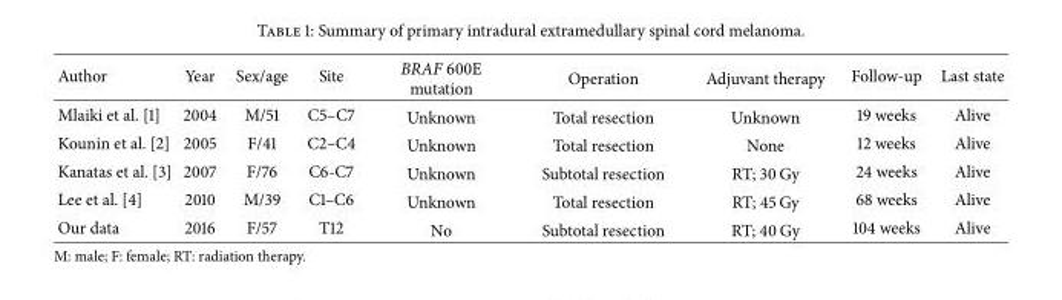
<table><thead><tr><td>Author</td><td>Year</td><td>Sex/age</td><td>Site</td><td>BRAF 600E mutation</td><td>Operation</td><td>Adjuvant therapy</td><td>Follow-up</td><td>Last state</td></tr></thead><tbody><tr><td>Mlaiki et al. [1]</td><td>2004</td><td>M/51</td><td>C5–C7</td><td>Unknown</td><td>Total resection</td><td>Unknown</td><td>19 weeks</td><td>Alive</td></tr><tr><td>Kounin et al. [2]</td><td>2005</td><td>F/41</td><td>C2–C4</td><td>Unknown</td><td>Total resection</td><td>None</td><td>12 weeks</td><td>Alive</td></tr><tr><td>Kanatas et al. [3]</td><td>2007</td><td>F/76</td><td>C6-C7</td><td>Unknown</td><td>Subtotal resection</td><td>RT; 30 Gy</td><td>24 weeks</td><td>Alive</td></tr><tr><td>Lee et al. [4]</td><td>2010</td><td>M/39</td><td>C1–C6</td><td>Unknown</td><td>Total resection</td><td>RT; 45 Gy</td><td>68 weeks</td><td>Alive</td></tr><tr><td>Our data</td><td>2016</td><td>F/57</td><td>T12</td><td>No</td><td>Subtotal resection</td><td>RT; 40 Gy</td><td>104 weeks</td><td>Alive</td></tr></tbody></table>